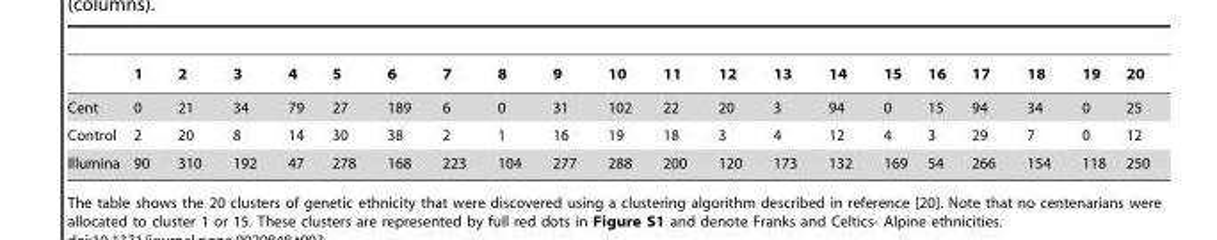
<table><thead><tr><td></td><td>1</td><td>2</td><td>3</td><td>4</td><td>5</td><td>6</td><td>7</td><td>8</td><td>9</td><td>10</td><td>11</td><td>12</td><td>13</td><td>14</td><td>15</td><td>16</td><td>17</td><td>18</td><td>19</td><td>20</td></tr></thead><tbody><tr><td>Cent</td><td>0</td><td>21</td><td>34</td><td>79</td><td>27</td><td>189</td><td>6</td><td>0</td><td>31</td><td>102</td><td>22</td><td>20</td><td>3</td><td>94</td><td>0</td><td>15</td><td>94</td><td>34</td><td>0</td><td>25</td></tr><tr><td>Control</td><td>2</td><td>20</td><td>8</td><td>14</td><td>30</td><td>38</td><td>2</td><td>1</td><td>16</td><td>19</td><td>18</td><td>3</td><td>4</td><td>12</td><td>4</td><td>3</td><td>29</td><td>7</td><td>0</td><td>12</td></tr><tr><td>Illumina</td><td>90</td><td>310</td><td>192</td><td>47</td><td>278</td><td>168</td><td>223</td><td>104</td><td>277</td><td>288</td><td>200</td><td>120</td><td>173</td><td>132</td><td>169</td><td>54</td><td>266</td><td>154</td><td>118</td><td>250</td></tr></tbody></table>